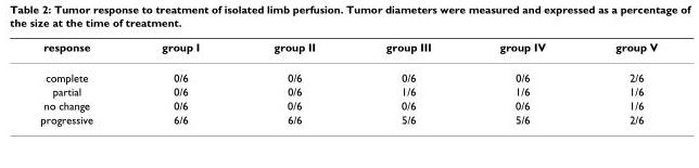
<table><thead><tr><td>response</td><td>group I</td><td>group II</td><td>group III</td><td>group IV</td><td>group V</td></tr></thead><tbody><tr><td>complete</td><td>0/6</td><td>0/6</td><td>0/6</td><td>0/6</td><td>2/6</td></tr><tr><td>partial</td><td>0/6</td><td>0/6</td><td>1/6</td><td>1/6</td><td>1/6</td></tr><tr><td>no change</td><td>0/6</td><td>0/6</td><td>0/6</td><td>0/6</td><td>1/6</td></tr><tr><td>progressive</td><td>6/6</td><td>6/6</td><td>5/6</td><td>5/6</td><td>2/6</td></tr></tbody></table>